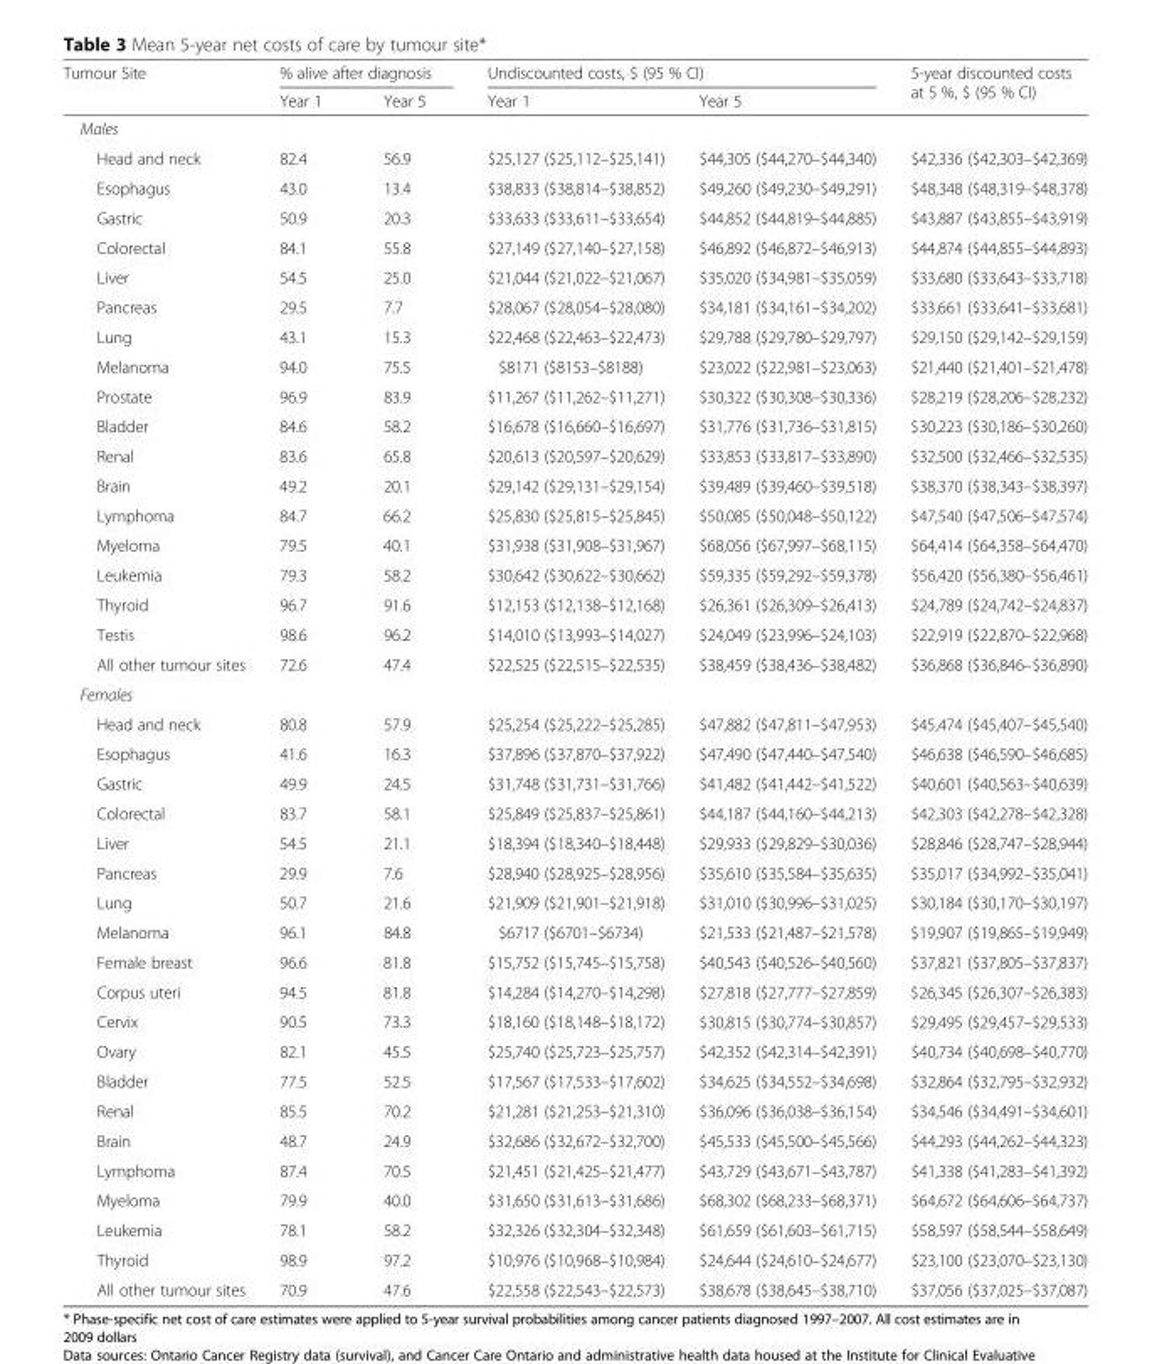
<table><thead><tr><td rowspan="2">Tumour Site</td><td colspan="2">% alive after diagnosis</td><td colspan="2">Undiscounted costs, $ (95 % CI)</td><td rowspan="2">5-year discounted costs at 5 %, $ (95 % CI)</td></tr><tr><td>Year 1</td><td>Year 5</td><td>Year 1</td><td>Year 5</td></tr></thead><tbody><tr><td colspan="6">Males</td></tr><tr><td>Head and neck</td><td>82.4</td><td>56.9</td><td>$25,127 ($25,112–$25,141)</td><td>$44,305 ($44,270–$44,340)</td><td>$42,336 ($42,303–$42,369)</td></tr><tr><td>Esophagus</td><td>43.0</td><td>13.4</td><td>$38,833 ($38,814–$38,852)</td><td>$49,260 ($49,230–$49,291)</td><td>$48,348 ($48,319–$48,378)</td></tr><tr><td>Gastric</td><td>50.9</td><td>20.3</td><td>$33,633 ($33,611–$33,654)</td><td>$44,852 ($44,819–$44,885)</td><td>$43,887 ($43,855–$43,919)</td></tr><tr><td>Colorectal</td><td>84.1</td><td>55.8</td><td>$27,149 ($27,140–$27,158)</td><td>$46,892 ($46,872–$46,913)</td><td>$44,874 ($44,855–$44,893)</td></tr><tr><td>Liver</td><td>54.5</td><td>25.0</td><td>$21,044 ($21,022–$21,067)</td><td>$35,020 ($34,981–$35,059)</td><td>$33,680 ($33,643–$33,718)</td></tr><tr><td>Pancreas</td><td>29.5</td><td>7.7</td><td>$28,067 ($28,054–$28,080)</td><td>$34,181 ($34,161–$34,202)</td><td>$33,661 ($33,641–$33,681)</td></tr><tr><td>Lung</td><td>43.1</td><td>15.3</td><td>$22,468 ($22,463–$22,473)</td><td>$29,788 ($29,780–$29,797)</td><td>$29,150 ($29,142–$29,159)</td></tr><tr><td>Melanoma</td><td>94.0</td><td>75.5</td><td>$8171 ($8153–$8188)</td><td>$23,022 ($22,981–$23,063)</td><td>$21,440 ($21,401–$21,478)</td></tr><tr><td>Prostate</td><td>96.9</td><td>83.9</td><td>$11,267 ($11,262–$11,271)</td><td>$30,322 ($30,308–$30,336)</td><td>$28,219 ($28,206–$28,232)</td></tr><tr><td>Bladder</td><td>84.6</td><td>58.2</td><td>$16,678 ($16,660–$16,697)</td><td>$31,776 ($31,736–$31,815)</td><td>$30,223 ($30,186–$30,260)</td></tr><tr><td>Renal</td><td>83.6</td><td>65.8</td><td>$20,613 ($20,597–$20,629)</td><td>$33,853 ($33,817–$33,890)</td><td>$32,500 ($32,466–$32,535)</td></tr><tr><td>Brain</td><td>49.2</td><td>20.1</td><td>$29,142 ($29,131–$29,154)</td><td>$39,489 ($39,460–$39,518)</td><td>$38,370 ($38,343–$38,397)</td></tr><tr><td>Lymphoma</td><td>84.7</td><td>66.2</td><td>$25,830 ($25,815–$25,845)</td><td>$50,085 ($50,048–$50,122)</td><td>$47,540 ($47,506–$47,574)</td></tr><tr><td>Myeloma</td><td>79.5</td><td>40.1</td><td>$31,938 ($31,908–$31,967)</td><td>$68,056 ($67,997–$68,115)</td><td>$64,414 ($64,358–$64,470)</td></tr><tr><td>Leukemia</td><td>79.3</td><td>58.2</td><td>$30,642 ($30,622–$30,662)</td><td>$59,335 ($59,292–$59,378)</td><td>$56,420 ($56,380–$56,461)</td></tr><tr><td>Thyroid</td><td>96.7</td><td>91.6</td><td>$12,153 ($12,138–$12,168)</td><td>$26,361 ($26,309–$26,413)</td><td>$24,789 ($24,742–$24,837)</td></tr><tr><td>Testis</td><td>98.6</td><td>96.2</td><td>$14,010 ($13,993–$14,027)</td><td>$24,049 ($23,996–$24,103)</td><td>$22,919 ($22,870–$22,968)</td></tr><tr><td>All other tumour sites</td><td>72.6</td><td>47.4</td><td>$22,525 ($22,515–$22,535)</td><td>$38,459 ($38,436–$38,482)</td><td>$36,868 ($36,846–$36,890)</td></tr><tr><td colspan="6">Females</td></tr><tr><td>Head and neck</td><td>80.8</td><td>57.9</td><td>$25,254 ($25,222–$25,285)</td><td>$47,882 ($47,811–$47,953)</td><td>$45,474 ($45,407–$45,540)</td></tr><tr><td>Esophagus</td><td>41.6</td><td>16.3</td><td>$37,896 ($37,870–$37,922)</td><td>$47,490 ($47,440–$47,540)</td><td>$46,638 ($46,590–$46,685)</td></tr><tr><td>Gastric</td><td>49.9</td><td>24.5</td><td>$31,748 ($31,731–$31,766)</td><td>$41,482 ($41,442–$41,522)</td><td>$40,601 ($40,563–$40,639)</td></tr><tr><td>Colorectal</td><td>83.7</td><td>58.1</td><td>$25,849 ($25,837–$25,861)</td><td>$44,187 ($44,160–$44,213)</td><td>$42,303 ($42,278–$42,328)</td></tr><tr><td>Liver</td><td>54.5</td><td>21.1</td><td>$18,394 ($18,340–$18,448)</td><td>$29,933 ($29,829–$30,036)</td><td>$28,846 ($28,747–$28,944)</td></tr><tr><td>Pancreas</td><td>29.9</td><td>7.6</td><td>$28,940 ($28,925–$28,956)</td><td>$35,610 ($35,584–$35,635)</td><td>$35,017 ($34,992–$35,041)</td></tr><tr><td>Lung</td><td>50.7</td><td>21.6</td><td>$21,909 ($21,901–$21,918)</td><td>$31,010 ($30,996–$31,025)</td><td>$30,184 ($30,170–$30,197)</td></tr><tr><td>Melanoma</td><td>96.1</td><td>84.8</td><td>$6717 ($6701–$6734)</td><td>$21,533 ($21,487–$21,578)</td><td>$19,907 ($19,865–$19,949)</td></tr><tr><td>Female breast</td><td>96.6</td><td>81.8</td><td>$15,752 ($15,745–$15,758)</td><td>$40,543 ($40,526–$40,560)</td><td>$37,821 ($37,805–$37,837)</td></tr><tr><td>Corpus uteri</td><td>94.5</td><td>81.8</td><td>$14,284 ($14,270–$14,298)</td><td>$27,818 ($27,777–$27,859)</td><td>$26,345 ($26,307–$26,383)</td></tr><tr><td>Cervix</td><td>90.5</td><td>73.3</td><td>$18,160 ($18,148–$18,172)</td><td>$30,815 ($30,774–$30,857)</td><td>$29,495 ($29,457–$29,533)</td></tr><tr><td>Ovary</td><td>82.1</td><td>45.5</td><td>$25,740 ($25,723–$25,757)</td><td>$42,352 ($42,314–$42,391)</td><td>$40,734 ($40,698–$40,770)</td></tr><tr><td>Bladder</td><td>77.5</td><td>52.5</td><td>$17,567 ($17,533–$17,602)</td><td>$34,625 ($34,552–$34,698)</td><td>$32,864 ($32,795–$32,932)</td></tr><tr><td>Renal</td><td>85.5</td><td>70.2</td><td>$21,281 ($21,253–$21,310)</td><td>$36,096 ($36,038–$36,154)</td><td>$34,546 ($34,491–$34,601)</td></tr><tr><td>Brain</td><td>48.7</td><td>24.9</td><td>$32,686 ($32,672–$32,700)</td><td>$45,533 ($45,500–$45,566)</td><td>$44,293 ($44,262–$44,323)</td></tr><tr><td>Lymphoma</td><td>87.4</td><td>70.5</td><td>$21,451 ($21,425–$21,477)</td><td>$43,729 ($43,671–$43,787)</td><td>$41,338 ($41,283–$41,392)</td></tr><tr><td>Myeloma</td><td>79.9</td><td>40.0</td><td>$31,650 ($31,613–$31,686)</td><td>$68,302 ($68,233–$68,371)</td><td>$64,672 ($64,606–$64,737)</td></tr><tr><td>Leukemia</td><td>78.1</td><td>58.2</td><td>$32,326 ($32,304–$32,348)</td><td>$61,659 ($61,603–$61,715)</td><td>$58,597 ($58,544–$58,649)</td></tr><tr><td>Thyroid</td><td>98.9</td><td>97.2</td><td>$10,976 ($10,968–$10,984)</td><td>$24,644 ($24,610–$24,677)</td><td>$23,100 ($23,070–$23,130)</td></tr><tr><td>All other tumour sites</td><td>70.9</td><td>47.6</td><td>$22,558 ($22,543–$22,573)</td><td>$38,678 ($38,645–$38,710)</td><td>$37,056 ($37,025–$37,087)</td></tr></tbody></table>